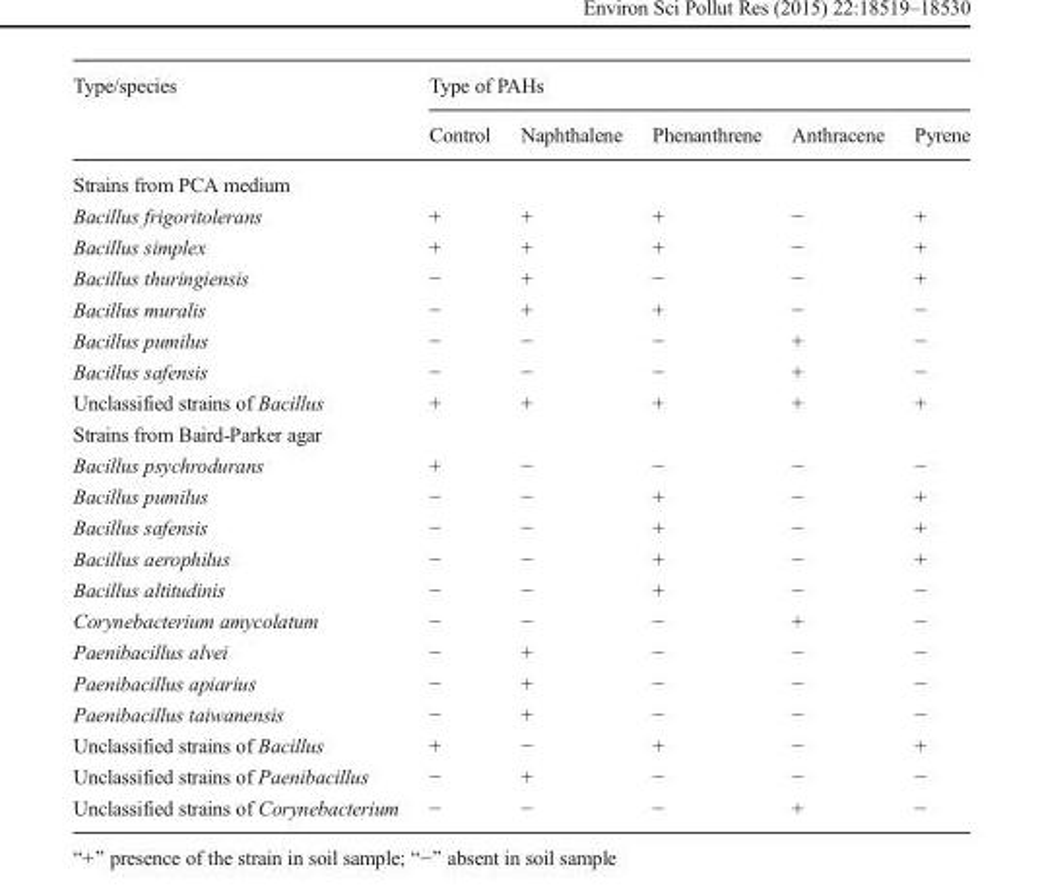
<table><thead><tr><td rowspan="2">Type/species</td><td colspan="5">Type of PAHs</td></tr><tr><td>Control</td><td>Naphthalene</td><td>Phenanthrene</td><td>Anthracene</td><td>Pyrene</td></tr></thead><tbody><tr><td colspan="6">Strains from PCA medium</td></tr><tr><td>Bacillus frigoritolerans</td><td>+</td><td>+</td><td>+</td><td>−</td><td>+</td></tr><tr><td>Bacillus simplex</td><td>+</td><td>+</td><td>+</td><td>−</td><td>+</td></tr><tr><td>Bacillus thuringiensis</td><td>−</td><td>+</td><td>−</td><td>−</td><td>+</td></tr><tr><td>Bacillus muralis</td><td>−</td><td>+</td><td>+</td><td>−</td><td>−</td></tr><tr><td>Bacillus pumilus</td><td>−</td><td>−</td><td>−</td><td>+</td><td>−</td></tr><tr><td>Bacillus safensis</td><td>−</td><td>−</td><td>−</td><td>+</td><td>−</td></tr><tr><td>Unclassified strains of Bacillus</td><td>+</td><td>+</td><td>+</td><td>+</td><td>+</td></tr><tr><td colspan="6">Strains from Baird-Parker agar</td></tr><tr><td>Bacillus psychrodurans</td><td>+</td><td>−</td><td>−</td><td>−</td><td>−</td></tr><tr><td>Bacillus pumilus</td><td>−</td><td>−</td><td>+</td><td>−</td><td>+</td></tr><tr><td>Bacillus safensis</td><td>−</td><td>−</td><td>+</td><td>−</td><td>+</td></tr><tr><td>Bacillus aerophilus</td><td>−</td><td>−</td><td>+</td><td>−</td><td>+</td></tr><tr><td>Bacillus altitudinis</td><td>−</td><td>−</td><td>+</td><td>−</td><td>−</td></tr><tr><td>Corynebacterium amycolatum</td><td>−</td><td>−</td><td>−</td><td>+</td><td>−</td></tr><tr><td>Paenibacillus alvei</td><td>−</td><td>+</td><td>−</td><td>−</td><td>−</td></tr><tr><td>Paenibacillus apiarius</td><td>−</td><td>+</td><td>−</td><td>−</td><td>−</td></tr><tr><td>Paenibacillus taiwanensis</td><td>−</td><td>+</td><td>−</td><td>−</td><td>−</td></tr><tr><td>Unclassified strains of Bacillus</td><td>+</td><td>−</td><td>+</td><td>−</td><td>+</td></tr><tr><td>Unclassified strains of Paenibacillus</td><td>−</td><td>+</td><td>−</td><td>−</td><td>−</td></tr><tr><td>Unclassified strains of Corynebacterium</td><td>−</td><td>−</td><td>−</td><td>+</td><td>−</td></tr></tbody></table>